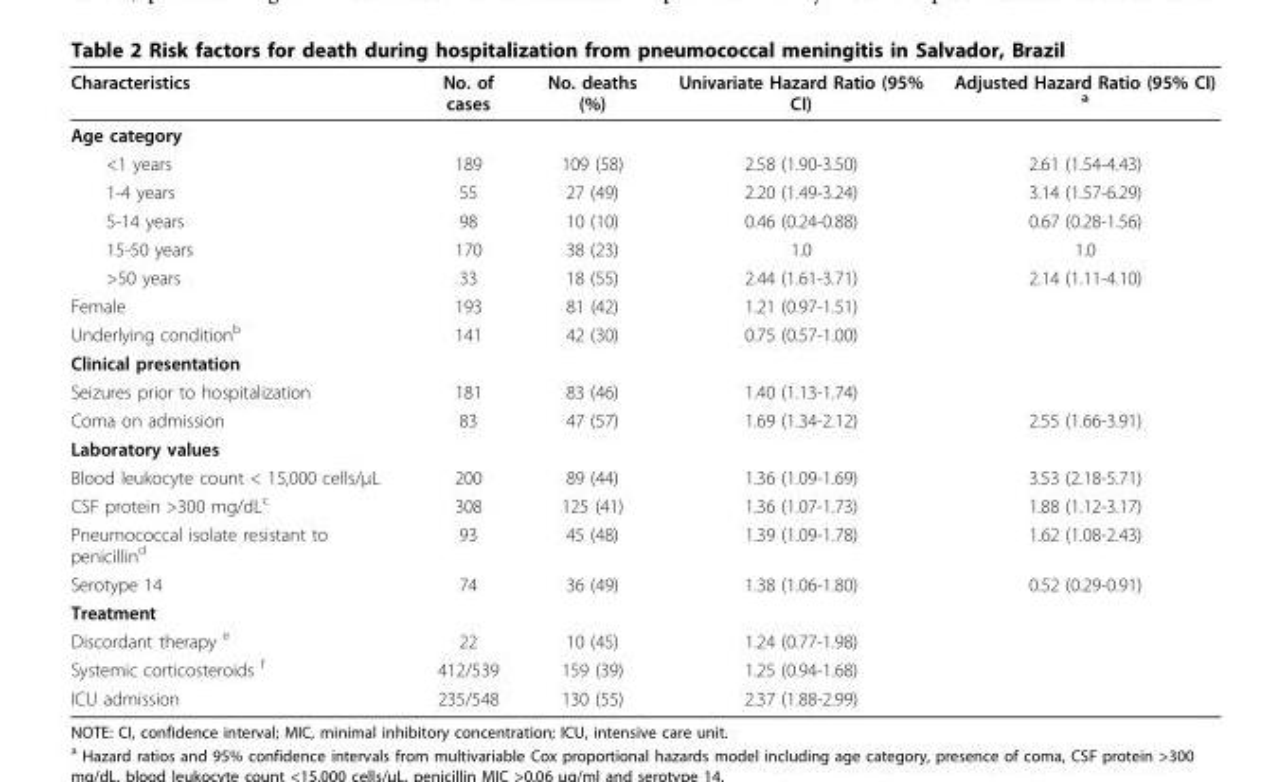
<table><thead><tr><td>Characteristics</td><td>No. of cases</td><td>No. deaths (%)</td><td>Univariate Hazard Ratio (95% CI)</td><td>Adjusted Hazard Ratio (95% CI) <sup>a</sup></td></tr></thead><tbody><tr><td colspan="5">Age category</td></tr><tr><td>&lt;1 years</td><td>189</td><td>109 (58)</td><td>2.58 (1.90-3.50)</td><td>2.61 (1.54-4.43)</td></tr><tr><td>1-4 years</td><td>55</td><td>27 (49)</td><td>2.20 (1.49-3.24)</td><td>3.14 (1.57-6.29)</td></tr><tr><td>5-14 years</td><td>98</td><td>10 (10)</td><td>0.46 (0.24-0.88)</td><td>0.67 (0.28-1.56)</td></tr><tr><td>15-50 years</td><td>170</td><td>38 (23)</td><td>1.0</td><td>1.0</td></tr><tr><td>&gt;50 years</td><td>33</td><td>18 (55)</td><td>2.44 (1.61-3.71)</td><td>2.14 (1.11-4.10)</td></tr><tr><td>Female</td><td>193</td><td>81 (42)</td><td>1.21 (0.97-1.51)</td><td></td></tr><tr><td>Underlying condition<sup>b</sup></td><td>141</td><td>42 (30)</td><td>0.75 (0.57-1.00)</td><td></td></tr><tr><td colspan="5">Clinical presentation</td></tr><tr><td>Seizures prior to hospitalization</td><td>181</td><td>83 (46)</td><td>1.40 (1.13-1.74)</td><td></td></tr><tr><td>Coma on admission</td><td>83</td><td>47 (57)</td><td>1.69 (1.34-2.12)</td><td>2.55 (1.66-3.91)</td></tr><tr><td colspan="5">Laboratory values</td></tr><tr><td>Blood leukocyte count &lt; 15,000 cells/μL</td><td>200</td><td>89 (44)</td><td>1.36 (1.09-1.69)</td><td>3.53 (2.18-5.71)</td></tr><tr><td>CSF protein &gt;300 mg/dL<sup>c</sup></td><td>308</td><td>125 (41)</td><td>1.36 (1.07-1.73)</td><td>1.88 (1.12-3.17)</td></tr><tr><td>Pneumococcal isolate resistant to penicillin<sup>d</sup></td><td>93</td><td>45 (48)</td><td>1.39 (1.09-1.78)</td><td>1.62 (1.08-2.43)</td></tr><tr><td>Serotype 14</td><td>74</td><td>36 (49)</td><td>1.38 (1.06-1.80)</td><td>0.52 (0.29-0.91)</td></tr><tr><td colspan="5">Treatment</td></tr><tr><td>Discordant therapy <sup>e</sup></td><td>22</td><td>10 (45)</td><td>1.24 (0.77-1.98)</td><td></td></tr><tr><td>Systemic corticosteroids <sup>f</sup></td><td>412/539</td><td>159 (39)</td><td>1.25 (0.94-1.68)</td><td></td></tr><tr><td>ICU admission</td><td>235/548</td><td>130 (55)</td><td>2.37 (1.88-2.99)</td><td></td></tr></tbody></table>